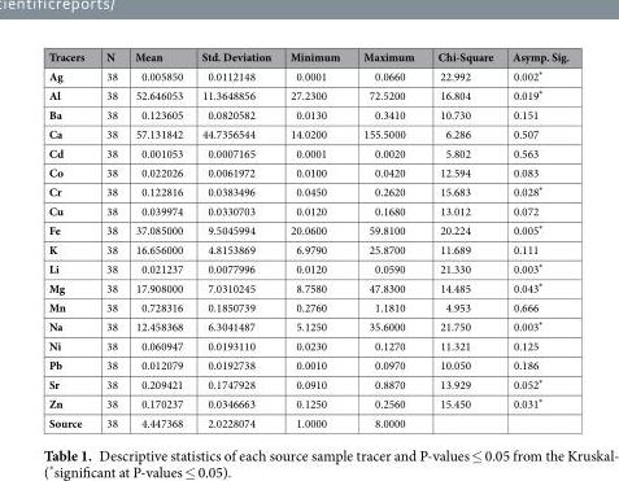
<table><thead><tr><td>Tracers</td><td>N</td><td>Mean</td><td>Std. Deviation</td><td>Minimum</td><td>Maximum</td><td>Chi-Square</td><td>Asymp. Sig.</td></tr></thead><tbody><tr><td>Ag</td><td>38</td><td>0.005850</td><td>0.0112148</td><td>0.0001</td><td>0.0660</td><td>22.992</td><td>0.002*</td></tr><tr><td>Al</td><td>38</td><td>52.646053</td><td>11.3648856</td><td>27.2300</td><td>72.5200</td><td>16.804</td><td>0.019*</td></tr><tr><td>Ba</td><td>38</td><td>0.123605</td><td>0.0820582</td><td>0.0130</td><td>0.3410</td><td>10.730</td><td>0.151</td></tr><tr><td>Ca</td><td>38</td><td>57.131842</td><td>44.7356544</td><td>14.0200</td><td>155.5000</td><td>6.286</td><td>0.507</td></tr><tr><td>Cd</td><td>38</td><td>0.001053</td><td>0.0007165</td><td>0.0001</td><td>0.0020</td><td>5.802</td><td>0.563</td></tr><tr><td>Co</td><td>38</td><td>0.022026</td><td>0.0061972</td><td>0.0100</td><td>0.0420</td><td>12.594</td><td>0.083</td></tr><tr><td>Cr</td><td>38</td><td>0.122816</td><td>0.0383496</td><td>0.0450</td><td>0.2620</td><td>15.683</td><td>0.028*</td></tr><tr><td>Cu</td><td>38</td><td>0.039974</td><td>0.0330703</td><td>0.0120</td><td>0.1680</td><td>13.012</td><td>0.072</td></tr><tr><td>Fe</td><td>38</td><td>37.085000</td><td>9.5045994</td><td>20.0600</td><td>59.8100</td><td>20.224</td><td>0.005*</td></tr><tr><td>K</td><td>38</td><td>16.656000</td><td>4.8153869</td><td>6.9790</td><td>25.8700</td><td>11.689</td><td>0.111</td></tr><tr><td>Li</td><td>38</td><td>0.021237</td><td>0.0077996</td><td>0.0120</td><td>0.0590</td><td>21.330</td><td>0.003*</td></tr><tr><td>Mg</td><td>38</td><td>17.908000</td><td>7.0310245</td><td>8.7580</td><td>47.8300</td><td>14.485</td><td>0.043*</td></tr><tr><td>Mn</td><td>38</td><td>0.728316</td><td>0.1850739</td><td>0.2760</td><td>1.1810</td><td>4.953</td><td>0.666</td></tr><tr><td>Na</td><td>38</td><td>12.458368</td><td>6.3041487</td><td>5.1250</td><td>35.6000</td><td>21.750</td><td>0.003*</td></tr><tr><td>Ni</td><td>38</td><td>0.060947</td><td>0.0193110</td><td>0.0230</td><td>0.1270</td><td>11.321</td><td>0.125</td></tr><tr><td>Pb</td><td>38</td><td>0.012079</td><td>0.0192738</td><td>0.0010</td><td>0.0970</td><td>10.050</td><td>0.186</td></tr><tr><td>Sr</td><td>38</td><td>0.209421</td><td>0.1747928</td><td>0.0910</td><td>0.8870</td><td>13.929</td><td>0.052*</td></tr><tr><td>Zn</td><td>38</td><td>0.170237</td><td>0.0346663</td><td>0.1250</td><td>0.2560</td><td>15.450</td><td>0.031*</td></tr><tr><td>Source</td><td>38</td><td>4.447368</td><td>2.0228074</td><td>1.0000</td><td>8.0000</td><td></td><td></td></tr></tbody></table>